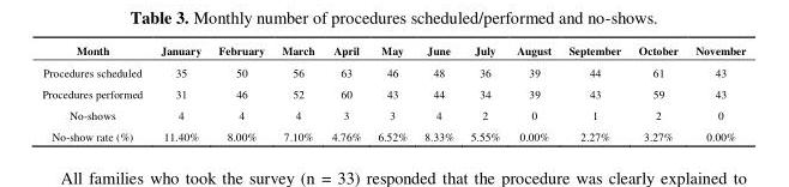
<table><thead><tr><td>Month</td><td>January</td><td>February</td><td>March</td><td>April</td><td>May</td><td>June</td><td>July</td><td>August</td><td>September</td><td>October</td><td>November</td></tr></thead><tbody><tr><td>Procedures scheduled</td><td>35</td><td>50</td><td>56</td><td>63</td><td>46</td><td>48</td><td>36</td><td>39</td><td>44</td><td>61</td><td>43</td></tr><tr><td>Procedures performed</td><td>31</td><td>46</td><td>52</td><td>60</td><td>43</td><td>44</td><td>34</td><td>39</td><td>43</td><td>59</td><td>43</td></tr><tr><td>No-shows</td><td>4</td><td>4</td><td>4</td><td>3</td><td>3</td><td>4</td><td>2</td><td>0</td><td>1</td><td>2</td><td>0</td></tr><tr><td>No-show rate (%)</td><td>11.40%</td><td>8.00%</td><td>7.10%</td><td>4.76%</td><td>6.52%</td><td>8.33%</td><td>5.55%</td><td>0.00%</td><td>2.27%</td><td>3.27%</td><td>0.00%</td></tr></tbody></table>